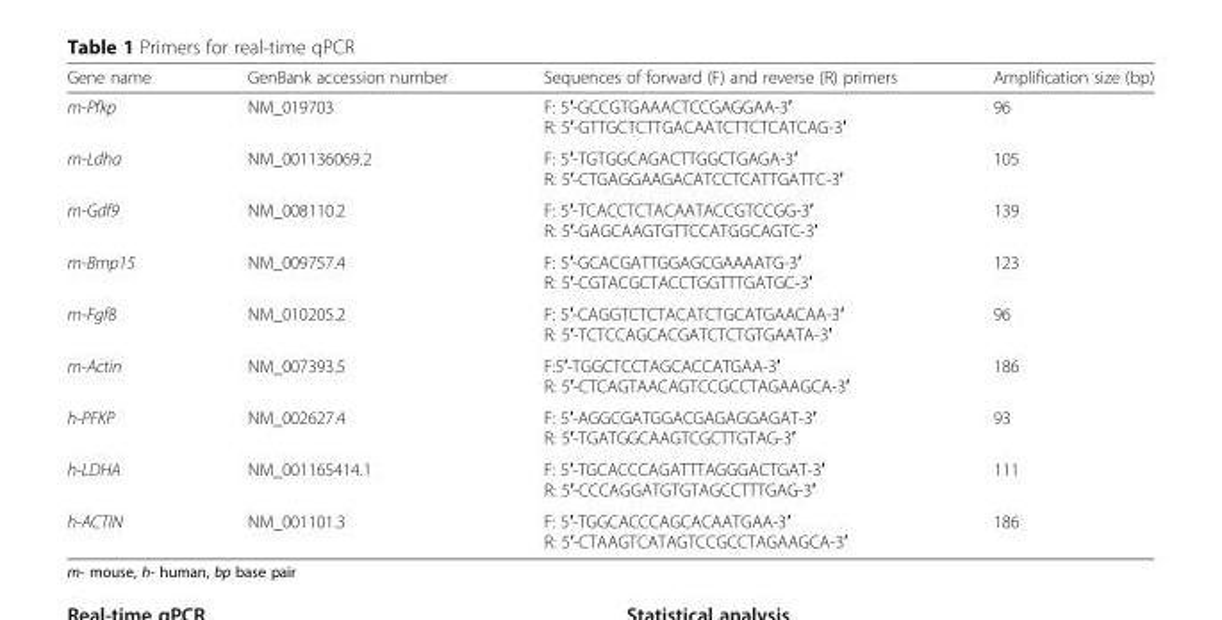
<table><thead><tr><td>Gene name</td><td>GenBank accession number</td><td>Sequences of forward (F) and reverse (R) primers</td><td>Amplification size (bp)</td></tr></thead><tbody><tr><td>m-Pfkp</td><td>NM_019703</td><td>F: 5′-GCCGTGAAACTCCGAGGAA-3′ R: 5′-GTTGCTCTTGACAATCTTCTCATCAG-3′</td><td>96</td></tr><tr><td>m-Ldha</td><td>NM_001136069.2</td><td>F: 5′-TGTGGCAGACTTGGCTGAGA-3′ R: 5′-CTGAGGAAGACATCCTCATTGATTC-3′</td><td>105</td></tr><tr><td>m-Gdf9</td><td>NM_008110.2</td><td>F: 5′-TCACCTCTACAATACCGTCCGG-3′ R: 5′-GAGCAAGTGTTCCATGGCAGTC-3′</td><td>139</td></tr><tr><td>m-Bmp15</td><td>NM_009757.4</td><td>F: 5′-GCACGATTGGAGCGAAAATG-3′ R: 5′-CGTACGCTACCTGGTTTGATGC-3′</td><td>123</td></tr><tr><td>m-Fgf8</td><td>NM_010205.2</td><td>F: 5′-CAGGTCTCTACATCTGCATGAACAA-3′ R: 5′-TCTCCAGCACGATCTCTGTGAATA-3′</td><td>96</td></tr><tr><td>m-Actin</td><td>NM_007393.5</td><td>F:5′-TGGCTCCTAGCACCATGAA-3′ R: 5′-CTCAGTAACAGTCCGCCTAGAAGCA-3′</td><td>186</td></tr><tr><td>h-PFKP</td><td>NM_002627.4</td><td>F: 5′-AGGCGATGGACGAGAGGAGAT-3′ R: 5′-TGATGGCAAGTCGCTTGTAG-3′</td><td>93</td></tr><tr><td>h-LDHA</td><td>NM_001165414.1</td><td>F: 5′-TGCACCCAGATTTAGGGACTGAT-3′ R: 5′-CCCAGGATGTGTAGCCTTTGAG-3′</td><td>111</td></tr><tr><td>h-ACTIN</td><td>NM_001101.3</td><td>F: 5′-TGGCACCCAGCACAATGAA-3′ R: 5′-CTAAGTCATAGTCCGCCTAGAAGCA-3′</td><td>186</td></tr></tbody></table>